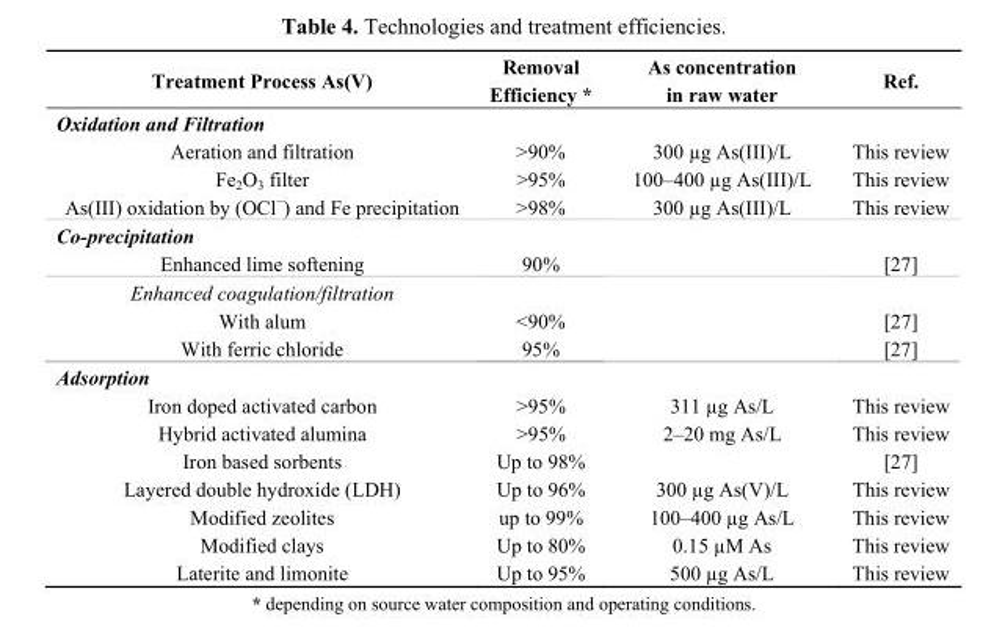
<table><thead><tr><td>Treatment Process As(V)</td><td>Removal Efficiency *</td><td>As concentration in raw water</td><td>Ref.</td></tr></thead><tbody><tr><td colspan="4">Oxidation and Filtration</td></tr><tr><td>Aeration and filtration</td><td>&gt;90%</td><td>300 µg As(III)/L</td><td>This review</td></tr><tr><td>Fe<sub>2</sub>O<sub>3</sub> filter</td><td>&gt;95%</td><td>100–400 µg As(III)/L</td><td>This review</td></tr><tr><td>As(III) oxidation by (OCl<sup>−</sup>) and Fe precipitation</td><td>&gt;98%</td><td>300 µg As(III)/L</td><td>This review</td></tr><tr><td colspan="4">Co-precipitation</td></tr><tr><td>Enhanced lime softening</td><td>90%</td><td></td><td>[27]</td></tr><tr><td colspan="4">Enhanced coagulation/filtration</td></tr><tr><td>With alum</td><td>&lt;90%</td><td></td><td>[27]</td></tr><tr><td>With ferric chloride</td><td>95%</td><td></td><td>[27]</td></tr><tr><td colspan="4">Adsorption</td></tr><tr><td>Iron doped activated carbon</td><td>&gt;95%</td><td>311 µg As/L</td><td>This review</td></tr><tr><td>Hybrid activated alumina</td><td>&gt;95%</td><td>2–20 mg As/L</td><td>This review</td></tr><tr><td>Iron based sorbents</td><td>Up to 98%</td><td></td><td>[27]</td></tr><tr><td>Layered double hydroxide (LDH)</td><td>Up to 96%</td><td>300 µg As(V)/L</td><td>This review</td></tr><tr><td>Modified zeolites</td><td>up to 99%</td><td>100–400 µg As/L</td><td>This review</td></tr><tr><td>Modified clays</td><td>Up to 80%</td><td>0.15 µM As</td><td>This review</td></tr><tr><td>Laterite and limonite</td><td>Up to 95%</td><td>500 µg As/L</td><td>This review</td></tr></tbody></table>